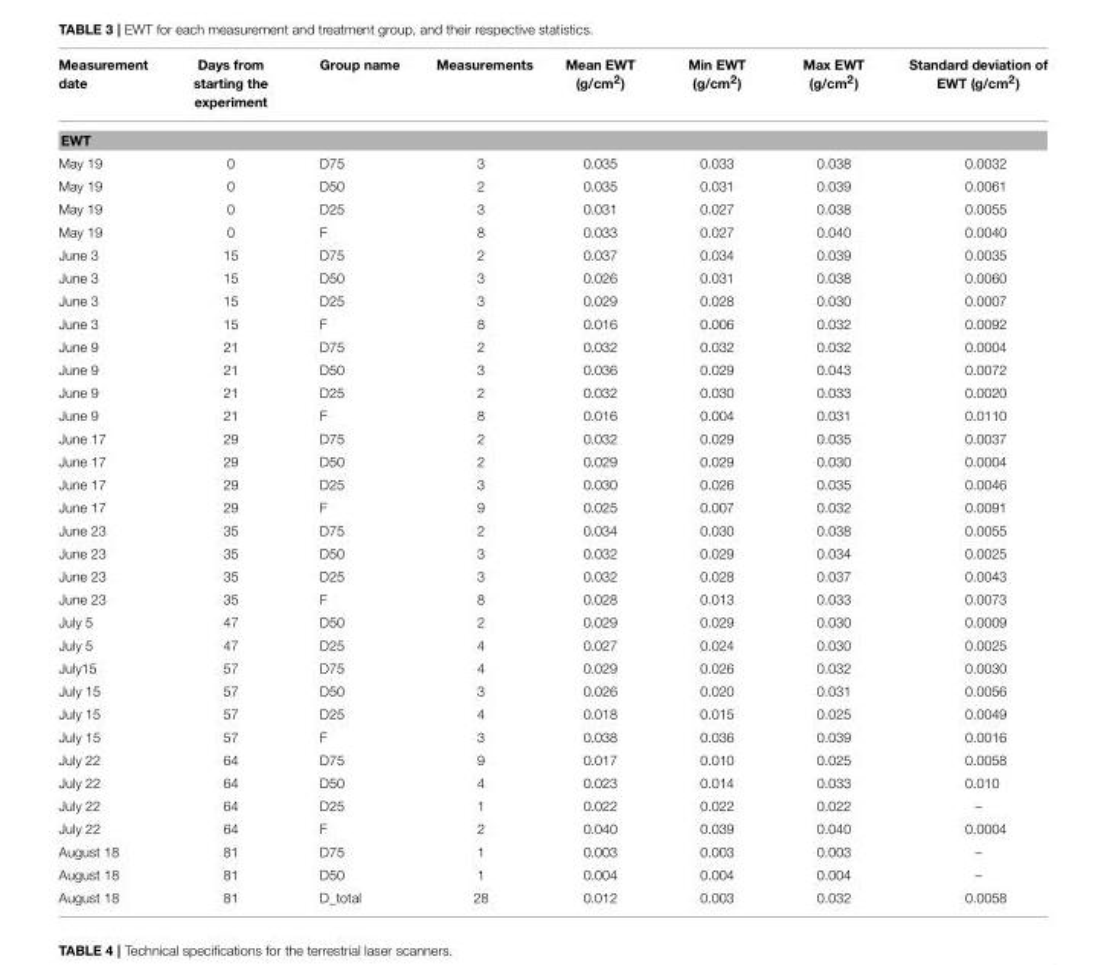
<table><thead><tr><td>Measurement date</td><td>Days from starting the experiment</td><td>Group name</td><td>Measurements</td><td>Mean EWT (g/cm<sup>2</sup>)</td><td>Min EWT (g/cm<sup>2</sup>)</td><td>Max EWT (g/cm<sup>2</sup>)</td><td>Standard deviation of EWT (g/cm<sup>2</sup>)</td></tr></thead><tbody><tr><td colspan="8">EWT</td></tr><tr><td>May 19</td><td>0</td><td>D75</td><td>3</td><td>0.035</td><td>0.033</td><td>0.038</td><td>0.0032</td></tr><tr><td>May 19</td><td>0</td><td>D50</td><td>2</td><td>0.035</td><td>0.031</td><td>0.039</td><td>0.0061</td></tr><tr><td>May 19</td><td>0</td><td>D25</td><td>3</td><td>0.031</td><td>0.027</td><td>0.038</td><td>0.0055</td></tr><tr><td>May 19</td><td>0</td><td>F</td><td>8</td><td>0.033</td><td>0.027</td><td>0.040</td><td>0.0040</td></tr><tr><td>June 3</td><td>15</td><td>D75</td><td>2</td><td>0.037</td><td>0.034</td><td>0.039</td><td>0.0035</td></tr><tr><td>June 3</td><td>15</td><td>D50</td><td>3</td><td>0.026</td><td>0.031</td><td>0.038</td><td>0.0060</td></tr><tr><td>June 3</td><td>15</td><td>D25</td><td>3</td><td>0.029</td><td>0.028</td><td>0.030</td><td>0.0007</td></tr><tr><td>June 3</td><td>15</td><td>F</td><td>8</td><td>0.016</td><td>0.006</td><td>0.032</td><td>0.0092</td></tr><tr><td>June 9</td><td>21</td><td>D75</td><td>2</td><td>0.032</td><td>0.032</td><td>0.032</td><td>0.0004</td></tr><tr><td>June 9</td><td>21</td><td>D50</td><td>3</td><td>0.036</td><td>0.029</td><td>0.043</td><td>0.0072</td></tr><tr><td>June 9</td><td>21</td><td>D25</td><td>2</td><td>0.032</td><td>0.030</td><td>0.033</td><td>0.0020</td></tr><tr><td>June 9</td><td>21</td><td>F</td><td>8</td><td>0.016</td><td>0.004</td><td>0.031</td><td>0.0110</td></tr><tr><td>June 17</td><td>29</td><td>D75</td><td>2</td><td>0.032</td><td>0.029</td><td>0.035</td><td>0.0037</td></tr><tr><td>June 17</td><td>29</td><td>D50</td><td>2</td><td>0.029</td><td>0.029</td><td>0.030</td><td>0.0004</td></tr><tr><td>June 17</td><td>29</td><td>D25</td><td>3</td><td>0.030</td><td>0.026</td><td>0.035</td><td>0.0046</td></tr><tr><td>June 17</td><td>29</td><td>F</td><td>9</td><td>0.025</td><td>0.007</td><td>0.032</td><td>0.0091</td></tr><tr><td>June 23</td><td>35</td><td>D75</td><td>2</td><td>0.034</td><td>0.030</td><td>0.038</td><td>0.0055</td></tr><tr><td>June 23</td><td>35</td><td>D50</td><td>3</td><td>0.032</td><td>0.029</td><td>0.034</td><td>0.0025</td></tr><tr><td>June 23</td><td>35</td><td>D25</td><td>3</td><td>0.032</td><td>0.028</td><td>0.037</td><td>0.0043</td></tr><tr><td>June 23</td><td>35</td><td>F</td><td>8</td><td>0.028</td><td>0.013</td><td>0.033</td><td>0.0073</td></tr><tr><td>July 5</td><td>47</td><td>D50</td><td>2</td><td>0.029</td><td>0.029</td><td>0.030</td><td>0.0009</td></tr><tr><td>July 5</td><td>47</td><td>D25</td><td>4</td><td>0.027</td><td>0.024</td><td>0.030</td><td>0.0025</td></tr><tr><td>July15</td><td>57</td><td>D75</td><td>4</td><td>0.029</td><td>0.026</td><td>0.032</td><td>0.0030</td></tr><tr><td>July 15</td><td>57</td><td>D50</td><td>3</td><td>0.026</td><td>0.020</td><td>0.031</td><td>0.0056</td></tr><tr><td>July 15</td><td>57</td><td>D25</td><td>4</td><td>0.018</td><td>0.015</td><td>0.025</td><td>0.0049</td></tr><tr><td>July 15</td><td>57</td><td>F</td><td>3</td><td>0.038</td><td>0.036</td><td>0.039</td><td>0.0016</td></tr><tr><td>July 22</td><td>64</td><td>D75</td><td>9</td><td>0.017</td><td>0.010</td><td>0.025</td><td>0.0058</td></tr><tr><td>July 22</td><td>64</td><td>D50</td><td>4</td><td>0.023</td><td>0.014</td><td>0.033</td><td>0.010</td></tr><tr><td>July 22</td><td>64</td><td>D25</td><td>1</td><td>0.022</td><td>0.022</td><td>0.022</td><td>–</td></tr><tr><td>July 22</td><td>64</td><td>F</td><td>2</td><td>0.040</td><td>0.039</td><td>0.040</td><td>0.0004</td></tr><tr><td>August 18</td><td>81</td><td>D75</td><td>1</td><td>0.003</td><td>0.003</td><td>0.003</td><td>–</td></tr><tr><td>August 18</td><td>81</td><td>D50</td><td>1</td><td>0.004</td><td>0.004</td><td>0.004</td><td>–</td></tr><tr><td>August 18</td><td>81</td><td>D_total</td><td>28</td><td>0.012</td><td>0.003</td><td>0.032</td><td>0.0058</td></tr></tbody></table>